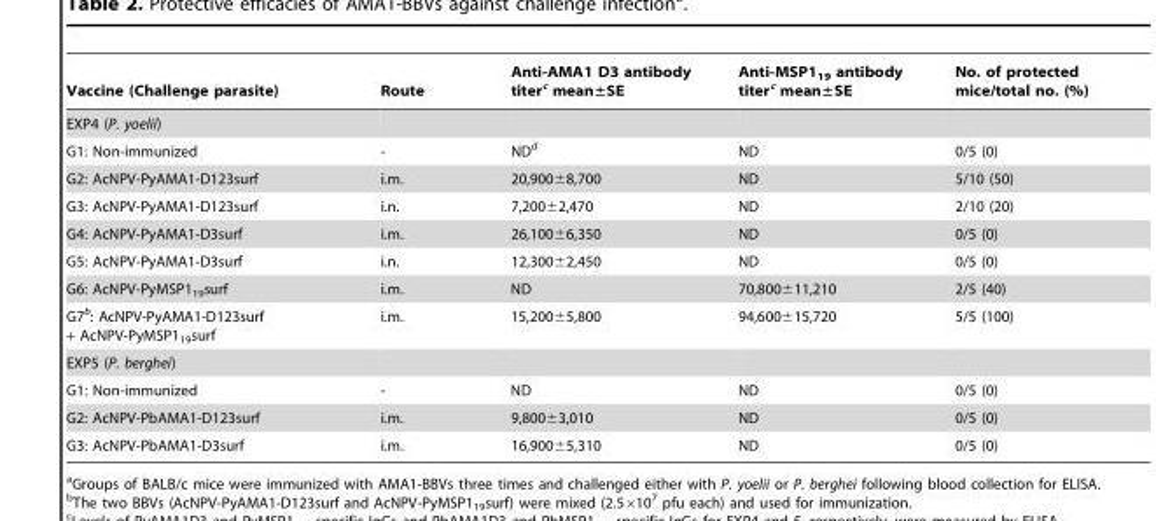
<table><thead><tr><td>Vaccine (Challenge parasite)</td><td>Route</td><td>Anti-AMA1 D3 antibody titer<sup>c</sup> mean±SE</td><td>Anti-MSP1<sub>19</sub> antibody titer<sup>c</sup> mean±SE</td><td>No. of protected mice/total no. (%)</td></tr></thead><tbody><tr><td colspan="5">EXP4 (P. yoelii)</td></tr><tr><td>G1: Non-immunized</td><td>-</td><td>ND<sup>d</sup></td><td>ND</td><td>0/5 (0)</td></tr><tr><td>G2: AcNPV-PyAMA1-D123surf</td><td>i.m.</td><td>20,900±8,700</td><td>ND</td><td>5/10 (50)</td></tr><tr><td>G3: AcNPV-PyAMA1-D123surf</td><td>i.n.</td><td>7,200±2,470</td><td>ND</td><td>2/10 (20)</td></tr><tr><td>G4: AcNPV-PyAMA1-D3surf</td><td>i.m.</td><td>26,100±6,350</td><td>ND</td><td>0/5 (0)</td></tr><tr><td>G5: AcNPV-PyAMA1-D3surf</td><td>i.n.</td><td>12,300±2,450</td><td>ND</td><td>0/5 (0)</td></tr><tr><td>G6: AcNPV-PyMSP1<sub>19</sub>surf</td><td>i.m.</td><td>ND</td><td>70,800±11,210</td><td>2/5 (40)</td></tr><tr><td>G7<sup>b</sup>: AcNPV-PyAMA1-D123surf + AcNPV-PyMSP1<sub>19</sub>surf</td><td>i.m.</td><td>15,200±5,800</td><td>94,600±15,720</td><td>5/5 (100)</td></tr><tr><td colspan="5">EXP5 (P. berghei)</td></tr><tr><td>G1: Non-immunized</td><td>-</td><td>ND</td><td>ND</td><td>0/5 (0)</td></tr><tr><td>G2: AcNPV-PbAMA1-D123surf</td><td>i.m.</td><td>9,800±3,010</td><td>ND</td><td>0/5 (0)</td></tr><tr><td>G3: AcNPV-PbAMA1-D3surf</td><td>i.m.</td><td>16,900±5,310</td><td>ND</td><td>0/5 (0)</td></tr></tbody></table>